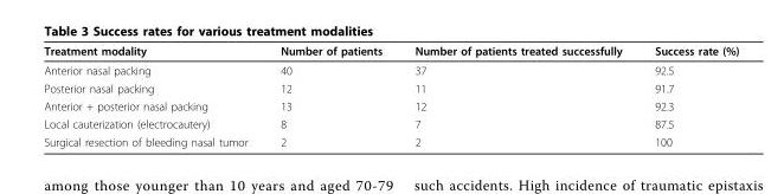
<table><thead><tr><td>Treatment modality</td><td>Number of patients</td><td>Number of patients treated successfully</td><td>Success rate (%)</td></tr></thead><tbody><tr><td>Anterior nasal packing</td><td>40</td><td>37</td><td>92.5</td></tr><tr><td>Posterior nasal packing</td><td>12</td><td>11</td><td>91.7</td></tr><tr><td>Anterior + posterior nasal packing</td><td>13</td><td>12</td><td>92.3</td></tr><tr><td>Local cauterization (electrocautery)</td><td>8</td><td>7</td><td>87.5</td></tr><tr><td>Surgical resection of bleeding nasal tumor</td><td>2</td><td>2</td><td>100</td></tr></tbody></table>